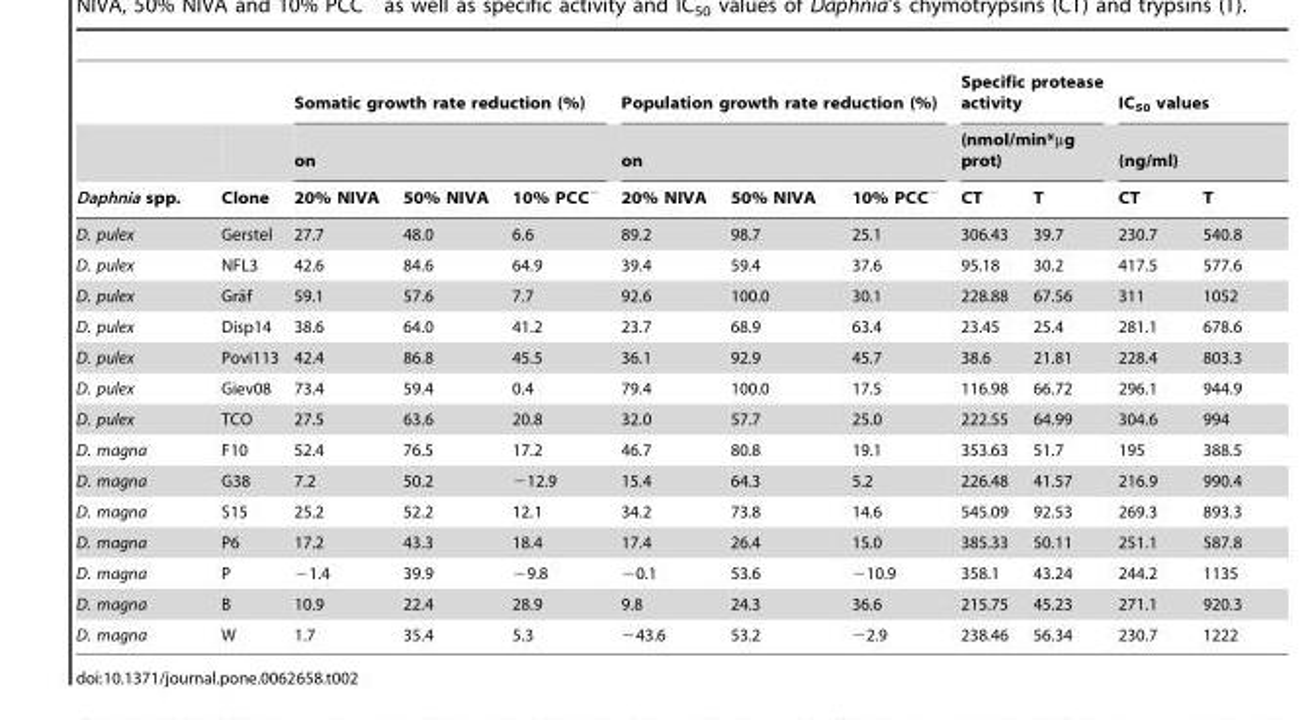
<table><thead><tr><td rowspan="3">Daphnia spp.</td><td rowspan="3">Clone</td><td rowspan="2" colspan="3">Somatic growth rate reduction (%) on</td><td rowspan="2" colspan="3">Population growth rate reduction (%) on</td><td rowspan="2" colspan="2">Specific protease activity (nmol/min*µg prot)</td><td rowspan="2" colspan="2">IC<sub>50</sub> values (ng/ml)</td></tr><tr></tr><tr><td>20% NIVA</td><td>50% NIVA</td><td>10% PCC<sup>−</sup></td><td>20% NIVA</td><td>50% NIVA</td><td>10% PCC<sup>−</sup></td><td>CT</td><td>T</td><td>CT</td><td>T</td></tr></thead><tbody><tr><td>D. pulex</td><td>Gerstel</td><td>27.7</td><td>48.0</td><td>6.6</td><td>89.2</td><td>98.7</td><td>25.1</td><td>306.43</td><td>39.7</td><td>230.7</td><td>540.8</td></tr><tr><td>D. pulex</td><td>NFL3</td><td>42.6</td><td>84.6</td><td>64.9</td><td>39.4</td><td>59.4</td><td>37.6</td><td>95.18</td><td>30.2</td><td>417.5</td><td>577.6</td></tr><tr><td>D. pulex</td><td>Gra¨f</td><td>59.1</td><td>57.6</td><td>7.7</td><td>92.6</td><td>100.0</td><td>30.1</td><td>228.88</td><td>67.56</td><td>311</td><td>1052</td></tr><tr><td>D. pulex</td><td>Disp14</td><td>38.6</td><td>64.0</td><td>41.2</td><td>23.7</td><td>68.9</td><td>63.4</td><td>23.45</td><td>25.4</td><td>281.1</td><td>678.6</td></tr><tr><td>D. pulex</td><td>Povi113</td><td>42.4</td><td>86.8</td><td>45.5</td><td>36.1</td><td>92.9</td><td>45.7</td><td>38.6</td><td>21.81</td><td>228.4</td><td>803.3</td></tr><tr><td>D. pulex</td><td>Giev08</td><td>73.4</td><td>59.4</td><td>0.4</td><td>79.4</td><td>100.0</td><td>17.5</td><td>116.98</td><td>66.72</td><td>296.1</td><td>944.9</td></tr><tr><td>D. pulex</td><td>TCO</td><td>27.5</td><td>63.6</td><td>20.8</td><td>32.0</td><td>57.7</td><td>25.0</td><td>222.55</td><td>64.99</td><td>304.6</td><td>994</td></tr><tr><td>D. magna</td><td>F10</td><td>52.4</td><td>76.5</td><td>17.2</td><td>46.7</td><td>80.8</td><td>19.1</td><td>353.63</td><td>51.7</td><td>195</td><td>388.5</td></tr><tr><td>D. magna</td><td>G38</td><td>7.2</td><td>50.2</td><td>−12.9</td><td>15.4</td><td>64.3</td><td>5.2</td><td>226.48</td><td>41.57</td><td>216.9</td><td>990.4</td></tr><tr><td>D. magna</td><td>S15</td><td>25.2</td><td>52.2</td><td>12.1</td><td>34.2</td><td>73.8</td><td>14.6</td><td>545.09</td><td>92.53</td><td>269.3</td><td>893.3</td></tr><tr><td>D. magna</td><td>P6</td><td>17.2</td><td>43.3</td><td>18.4</td><td>17.4</td><td>26.4</td><td>15.0</td><td>385.33</td><td>50.11</td><td>251.1</td><td>587.8</td></tr><tr><td>D. magna</td><td>P</td><td>−1.4</td><td>39.9</td><td>−9.8</td><td>−0.1</td><td>53.6</td><td>−10.9</td><td>358.1</td><td>43.24</td><td>244.2</td><td>1135</td></tr><tr><td>D. magna</td><td>B</td><td>10.9</td><td>22.4</td><td>28.9</td><td>9.8</td><td>24.3</td><td>36.6</td><td>215.75</td><td>45.23</td><td>271.1</td><td>920.3</td></tr><tr><td>D. magna</td><td>W</td><td>1.7</td><td>35.4</td><td>5.3</td><td>−43.6</td><td>53.2</td><td>−2.9</td><td>238.46</td><td>56.34</td><td>230.7</td><td>1222</td></tr></tbody></table>